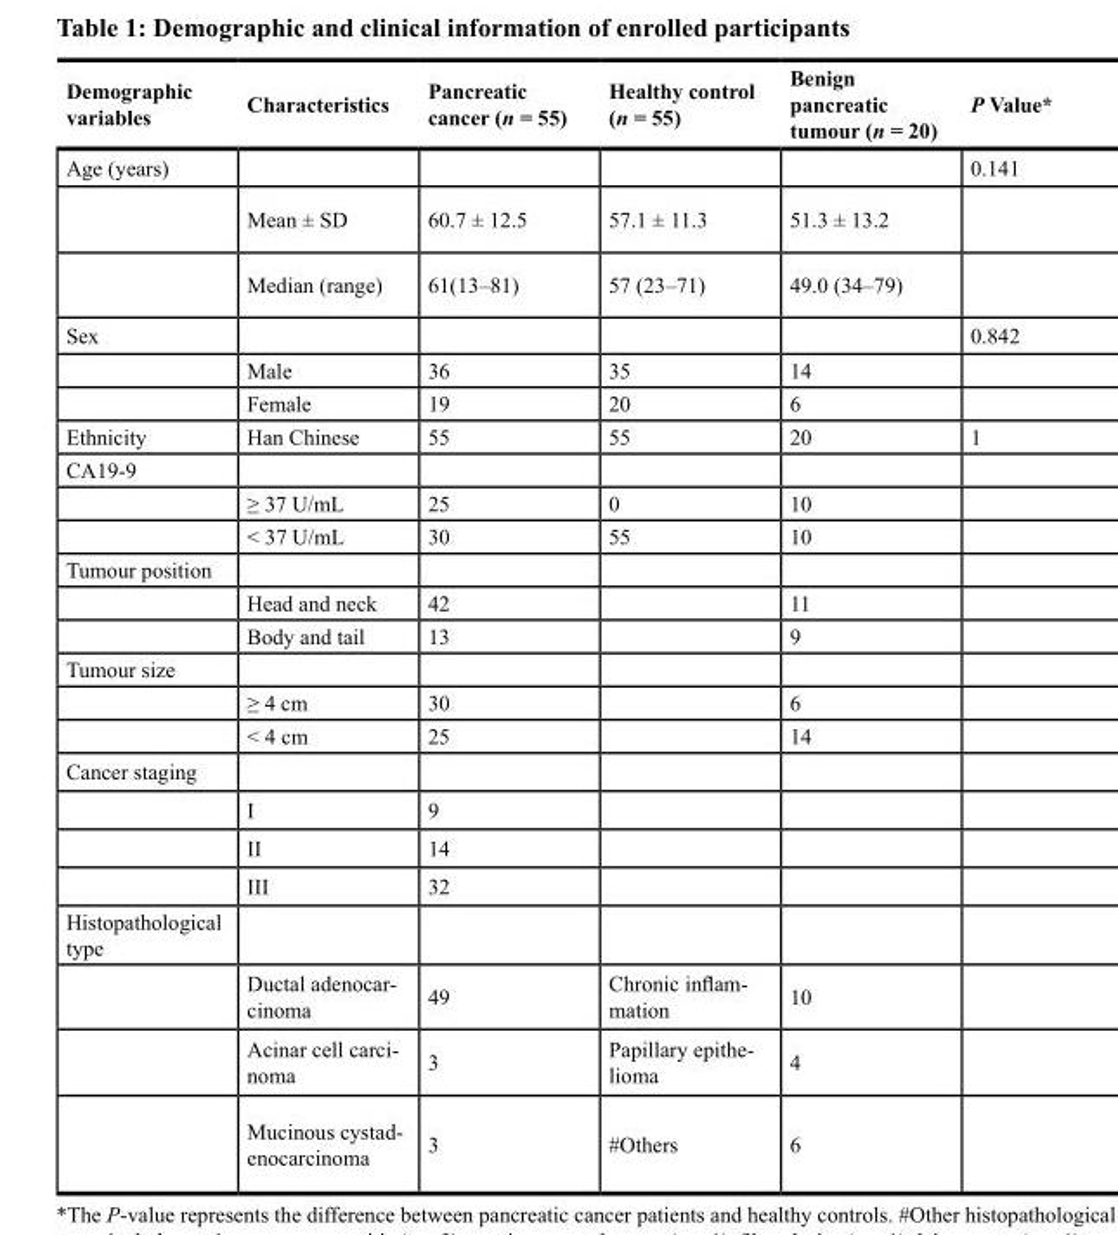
<table><thead><tr><td>Demographic variables</td><td>Characteristics</td><td>Pancreatic cancer (n = 55)</td><td>Healthy control (n = 55)</td><td>Benign pancreatic tumour (n = 20)</td><td>P Value*</td></tr></thead><tbody><tr><td rowspan="3">Age (years)</td><td></td><td></td><td></td><td></td><td>0.141</td></tr><tr><td>Mean ± SD</td><td>60.7 ± 12.5</td><td>57.1 ± 11.3</td><td>51.3 ± 13.2</td><td></td></tr><tr><td>Median (range)</td><td>61(13–81)</td><td>57 (23–71)</td><td>49.0 (34–79)</td><td></td></tr><tr><td rowspan="3">Sex</td><td></td><td></td><td></td><td></td><td>0.842</td></tr><tr><td>Male</td><td>36</td><td>35</td><td>14</td><td></td></tr><tr><td>Female</td><td>19</td><td>20</td><td>6</td><td></td></tr><tr><td>Ethnicity</td><td>Han Chinese</td><td>55</td><td>55</td><td>20</td><td>1</td></tr><tr><td colspan="6">CA19-9</td></tr><tr><td></td><td>≥ 37 U/mL</td><td>25</td><td>0</td><td>10</td><td></td></tr><tr><td></td><td>&lt; 37 U/mL</td><td>30</td><td>55</td><td>10</td><td></td></tr><tr><td colspan="6">Tumour position</td></tr><tr><td></td><td>Head and neck</td><td>42</td><td></td><td>11</td><td></td></tr><tr><td></td><td>Body and tail</td><td>13</td><td></td><td>9</td><td></td></tr><tr><td colspan="6">Tumour size</td></tr><tr><td></td><td>≥ 4 cm</td><td>30</td><td></td><td>6</td><td></td></tr><tr><td></td><td>&lt; 4 cm</td><td>25</td><td></td><td>14</td><td></td></tr><tr><td colspan="6">Cancer staging</td></tr><tr><td></td><td>I</td><td>9</td><td></td><td></td><td></td></tr><tr><td></td><td>II</td><td>14</td><td></td><td></td><td></td></tr><tr><td></td><td>III</td><td>32</td><td></td><td></td><td></td></tr><tr><td colspan="6">Histopathological type</td></tr><tr><td></td><td>Ductal adenocar- cinoma</td><td>49</td><td>Chronic inflam- mation</td><td>10</td><td></td></tr><tr><td></td><td>Acinar cell carci- noma</td><td>3</td><td>Papillary epithe- lioma</td><td>4</td><td></td></tr><tr><td></td><td>Mucinous cystad- enocarcinoma</td><td>3</td><td>#Others</td><td>6</td><td></td></tr></tbody></table>